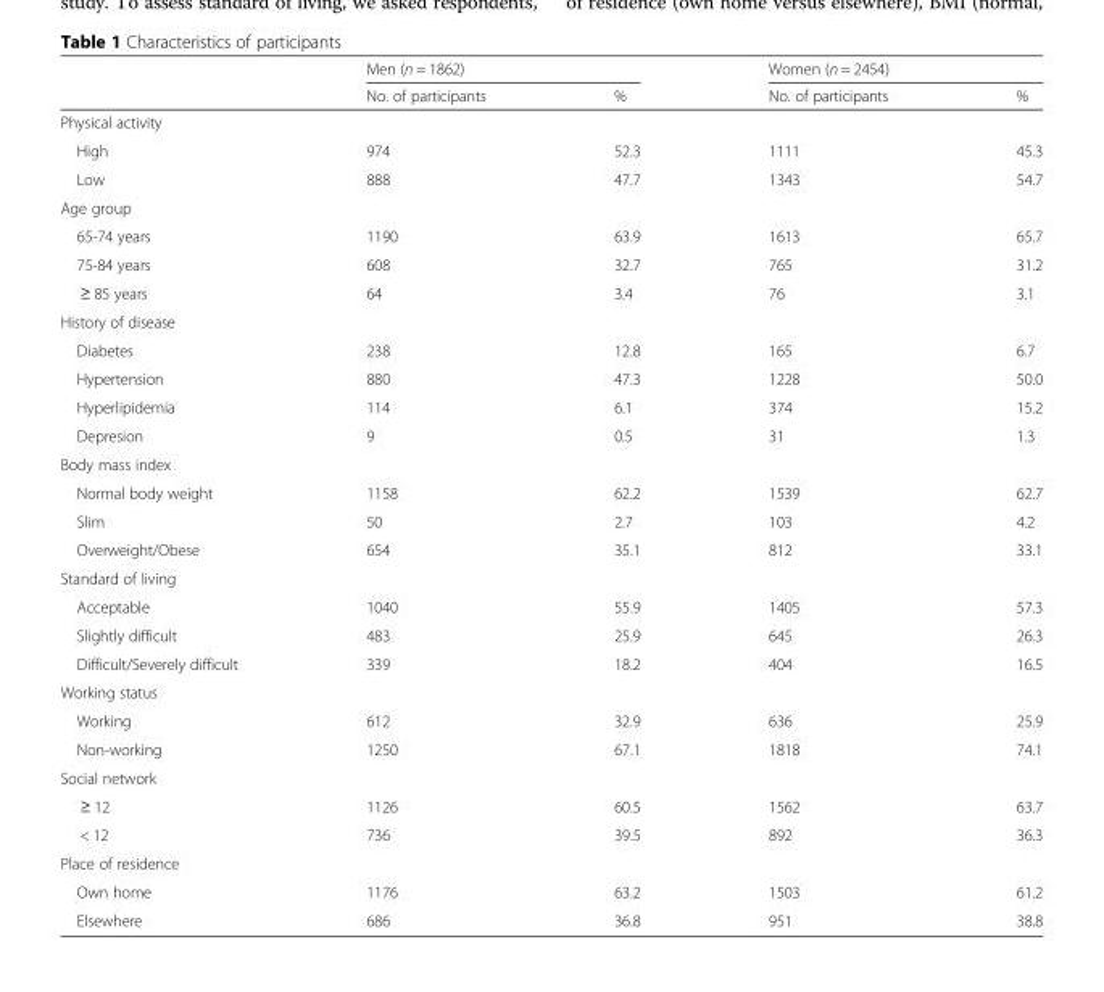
<table><thead><tr><td rowspan="2"></td><td colspan="2">Men (n = 1862)</td><td colspan="2">Women (n = 2454)</td></tr><tr><td>No. of participants</td><td>%</td><td>No. of participants</td><td>%</td></tr></thead><tbody><tr><td colspan="5">Physical activity</td></tr><tr><td>High</td><td>974</td><td>52.3</td><td>1111</td><td>45.3</td></tr><tr><td>Low</td><td>888</td><td>47.7</td><td>1343</td><td>54.7</td></tr><tr><td colspan="5">Age group</td></tr><tr><td>65-74 years</td><td>1190</td><td>63.9</td><td>1613</td><td>65.7</td></tr><tr><td>75-84 years</td><td>608</td><td>32.7</td><td>765</td><td>31.2</td></tr><tr><td>≥ 85 years</td><td>64</td><td>3.4</td><td>76</td><td>3.1</td></tr><tr><td colspan="5">History of disease</td></tr><tr><td>Diabetes</td><td>238</td><td>12.8</td><td>165</td><td>6.7</td></tr><tr><td>Hypertension</td><td>880</td><td>47.3</td><td>1228</td><td>50.0</td></tr><tr><td>Hyperlipidemia</td><td>114</td><td>6.1</td><td>374</td><td>15.2</td></tr><tr><td>Depresion</td><td>9</td><td>0.5</td><td>31</td><td>1.3</td></tr><tr><td colspan="5">Body mass index</td></tr><tr><td>Normal body weight</td><td>1158</td><td>62.2</td><td>1539</td><td>62.7</td></tr><tr><td>Slim</td><td>50</td><td>2.7</td><td>103</td><td>4.2</td></tr><tr><td>Overweight/Obese</td><td>654</td><td>35.1</td><td>812</td><td>33.1</td></tr><tr><td colspan="5">Standard of living</td></tr><tr><td>Acceptable</td><td>1040</td><td>55.9</td><td>1405</td><td>57.3</td></tr><tr><td>Slightly difficult</td><td>483</td><td>25.9</td><td>645</td><td>26.3</td></tr><tr><td>Difficult/Severely difficult</td><td>339</td><td>18.2</td><td>404</td><td>16.5</td></tr><tr><td colspan="5">Working status</td></tr><tr><td>Working</td><td>612</td><td>32.9</td><td>636</td><td>25.9</td></tr><tr><td>Non-working</td><td>1250</td><td>67.1</td><td>1818</td><td>74.1</td></tr><tr><td colspan="5">Social network</td></tr><tr><td>≥ 12</td><td>1126</td><td>60.5</td><td>1562</td><td>63.7</td></tr><tr><td>&lt; 12</td><td>736</td><td>39.5</td><td>892</td><td>36.3</td></tr><tr><td colspan="5">Place of residence</td></tr><tr><td>Own home</td><td>1176</td><td>63.2</td><td>1503</td><td>61.2</td></tr><tr><td>Elsewhere</td><td>686</td><td>36.8</td><td>951</td><td>38.8</td></tr></tbody></table>